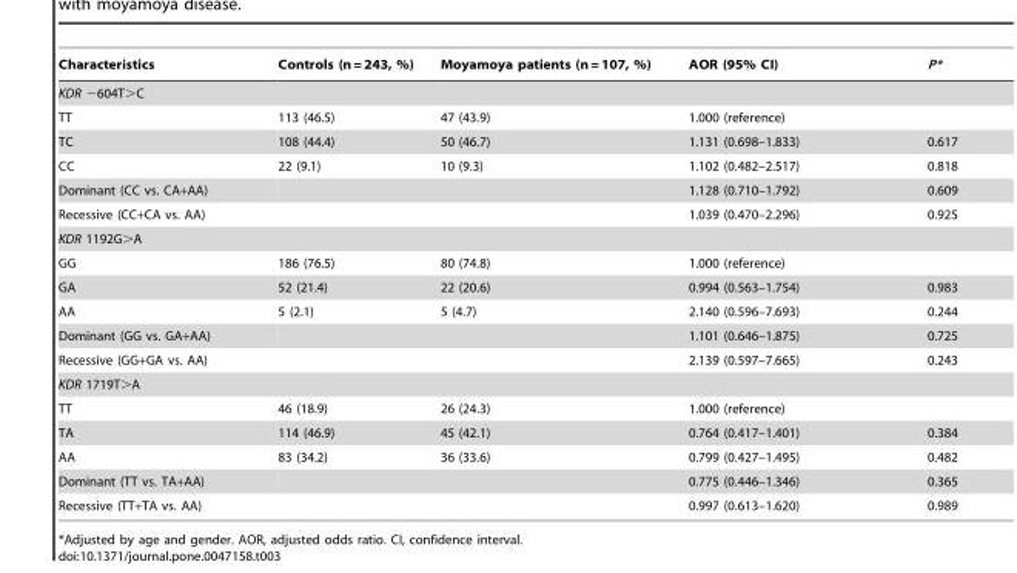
<table><thead><tr><td>Characteristics</td><td>Controls (n = 243, %)</td><td>Moyamoya patients (n = 107, %)</td><td>AOR (95% CI)</td><td>P*</td></tr></thead><tbody><tr><td colspan="5">KDR −604T&gt;C</td></tr><tr><td>TT</td><td>113 (46.5)</td><td>47 (43.9)</td><td>1.000 (reference)</td><td></td></tr><tr><td>TC</td><td>108 (44.4)</td><td>50 (46.7)</td><td>1.131 (0.698–1.833)</td><td>0.617</td></tr><tr><td>CC</td><td>22 (9.1)</td><td>10 (9.3)</td><td>1.102 (0.482–2.517)</td><td>0.818</td></tr><tr><td>Dominant (CC vs. CA+AA)</td><td></td><td></td><td>1.128 (0.710–1.792)</td><td>0.609</td></tr><tr><td>Recessive (CC+CA vs. AA)</td><td></td><td></td><td>1.039 (0.470–2.296)</td><td>0.925</td></tr><tr><td colspan="5">KDR 1192G&gt;A</td></tr><tr><td>GG</td><td>186 (76.5)</td><td>80 (74.8)</td><td>1.000 (reference)</td><td></td></tr><tr><td>GA</td><td>52 (21.4)</td><td>22 (20.6)</td><td>0.994 (0.563–1.754)</td><td>0.983</td></tr><tr><td>AA</td><td>5 (2.1)</td><td>5 (4.7)</td><td>2.140 (0.596–7.693)</td><td>0.244</td></tr><tr><td>Dominant (GG vs. GA+AA)</td><td></td><td></td><td>1.101 (0.646–1.875)</td><td>0.725</td></tr><tr><td>Recessive (GG+GA vs. AA)</td><td></td><td></td><td>2.139 (0.597–7.665)</td><td>0.243</td></tr><tr><td colspan="5">KDR 1719T&gt;A</td></tr><tr><td>TT</td><td>46 (18.9)</td><td>26 (24.3)</td><td>1.000 (reference)</td><td></td></tr><tr><td>TA</td><td>114 (46.9)</td><td>45 (42.1)</td><td>0.764 (0.417–1.401)</td><td>0.384</td></tr><tr><td>AA</td><td>83 (34.2)</td><td>36 (33.6)</td><td>0.799 (0.427–1.495)</td><td>0.482</td></tr><tr><td>Dominant (TT vs. TA+AA)</td><td></td><td></td><td>0.775 (0.446–1.346)</td><td>0.365</td></tr><tr><td>Recessive (TT+TA vs. AA)</td><td></td><td></td><td>0.997 (0.613–1.620)</td><td>0.989</td></tr></tbody></table>